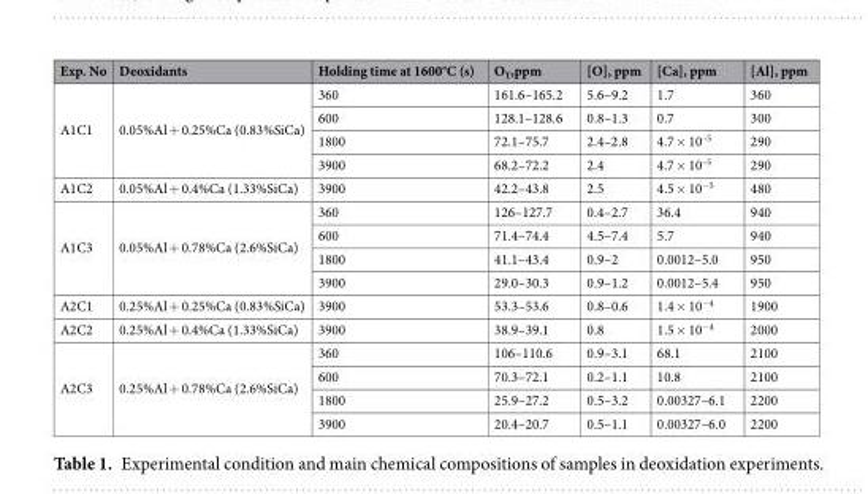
<table><thead><tr><td>Exp. No</td><td>Deoxidants</td><td>Holding time at 1600°C (s)</td><td>O<sub>T</sub>,ppm</td><td>[O], ppm</td><td>[Ca], ppm</td><td>[Al], ppm</td></tr></thead><tbody><tr><td rowspan="4">A1C1</td><td rowspan="4">0.05%Al + 0.25%Ca (0.83%SiCa)</td><td>360</td><td>161.6–165.2</td><td>5.6–9.2</td><td>1.7</td><td>360</td></tr><tr><td>600</td><td>128.1–128.6</td><td>0.8–1.3</td><td>0.7</td><td>300</td></tr><tr><td>1800</td><td>72.1–75.7</td><td>2.4–2.8</td><td>4.7 × 10<sup>–5</sup></td><td>290</td></tr><tr><td>3900</td><td>68.2–72.2</td><td>2.4</td><td>4.7 × 10<sup>–5</sup></td><td>290</td></tr><tr><td>A1C2</td><td>0.05%Al + 0.4%Ca (1.33%SiCa)</td><td>3900</td><td>42.2–43.8</td><td>2.5</td><td>4.5 × 10<sup>−5</sup></td><td>480</td></tr><tr><td rowspan="4">A1C3</td><td rowspan="4">0.05%Al + 0.78%Ca (2.6%SiCa)</td><td>360</td><td>126–127.7</td><td>0.4–2.7</td><td>36.4</td><td>940</td></tr><tr><td>600</td><td>71.4–74.4</td><td>4.5–7.4</td><td>5.7</td><td>940</td></tr><tr><td>1800</td><td>41.1–43.4</td><td>0.9–2</td><td>0.0012–5.0</td><td>950</td></tr><tr><td>3900</td><td>29.0–30.3</td><td>0.9–1.2</td><td>0.0012–5.4</td><td>950</td></tr><tr><td>A2C1</td><td>0.25%Al + 0.25%Ca (0.83%SiCa)</td><td>3900</td><td>53.3–53.6</td><td>0.8–0.6</td><td>1.4 × 10<sup>−4</sup></td><td>1900</td></tr><tr><td>A2C2</td><td>0.25%Al + 0.4%Ca (1.33%SiCa)</td><td>3900</td><td>38.9–39.1</td><td>0.8</td><td>1.5 × 10<sup>−4</sup></td><td>2000</td></tr><tr><td rowspan="4">A2C3</td><td rowspan="4">0.25%Al + 0.78%Ca (2.6%SiCa)</td><td>360</td><td>106–110.6</td><td>0.9–3.1</td><td>68.1</td><td>2100</td></tr><tr><td>600</td><td>70.3–72.1</td><td>0.2–1.1</td><td>10.8</td><td>2100</td></tr><tr><td>1800</td><td>25.9–27.2</td><td>0.5–3.2</td><td>0.00327–6.1</td><td>2200</td></tr><tr><td>3900</td><td>20.4–20.7</td><td>0.5–1.1</td><td>0.00327–6.0</td><td>2200</td></tr></tbody></table>